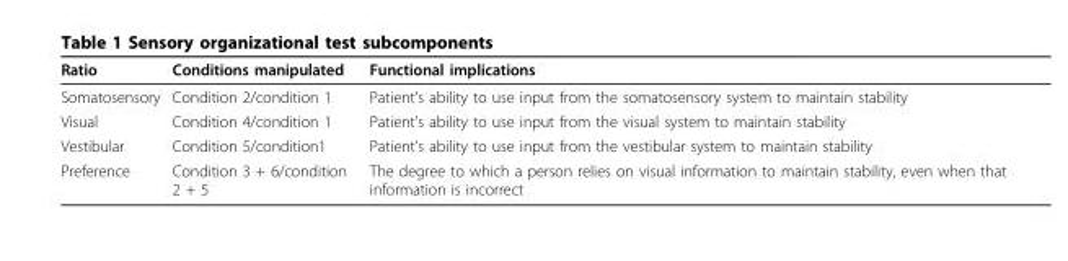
<table><thead><tr><td>Ratio</td><td>Conditions manipulated</td><td>Functional implications</td></tr></thead><tbody><tr><td>Somatosensory</td><td>Condition 2/condition 1</td><td>Patient’s ability to use input from the somatosensory system to maintain stability</td></tr><tr><td>Visual</td><td>Condition 4/condition 1</td><td>Patient’s ability to use input from the visual system to maintain stability</td></tr><tr><td>Vestibular</td><td>Condition 5/condition1</td><td>Patient’s ability to use input from the vestibular system to maintain stability</td></tr><tr><td>Preference</td><td>Condition 3 + 6/condition 2 + 5</td><td>The degree to which a person relies on visual information to maintain stability, even when that information is incorrect</td></tr></tbody></table>